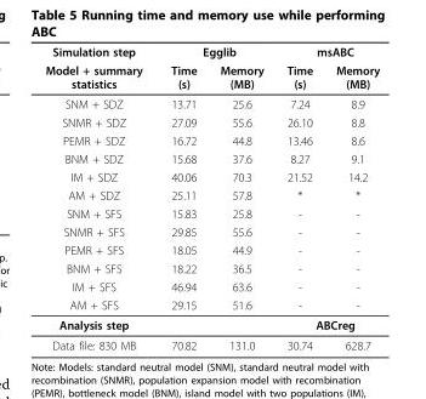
<table><thead><tr><td rowspan="2">Simulation step Model + summary statistics</td><td colspan="2">Egglib</td><td colspan="2">msABC</td></tr><tr><td>Time (s)</td><td>Memory (MB)</td><td>Time (s)</td><td>Memory (MB)</td></tr></thead><tbody><tr><td>SNM + SDZ</td><td>13.71</td><td>25.6</td><td>7.24</td><td>8.9</td></tr><tr><td>SNMR + SDZ</td><td>27.09</td><td>55.6</td><td>26.10</td><td>8.8</td></tr><tr><td>PEMR + SDZ</td><td>16.72</td><td>44.8</td><td>13.46</td><td>8.6</td></tr><tr><td>BNM + SDZ</td><td>15.68</td><td>37.6</td><td>8.27</td><td>9.1</td></tr><tr><td>IM + SDZ</td><td>40.06</td><td>70.3</td><td>21.52</td><td>14.2</td></tr><tr><td>AM + SDZ</td><td>25.11</td><td>57.8</td><td>*</td><td>*</td></tr><tr><td>SNM + SFS</td><td>15.83</td><td>25.8</td><td>-</td><td>-</td></tr><tr><td>SNMR + SFS</td><td>29.85</td><td>55.6</td><td>-</td><td>-</td></tr><tr><td>PEMR + SFS</td><td>18.05</td><td>44.9</td><td>-</td><td>-</td></tr><tr><td>BNM + SFS</td><td>18.22</td><td>36.5</td><td>-</td><td>-</td></tr><tr><td>IM + SFS</td><td>46.94</td><td>63.6</td><td>-</td><td>-</td></tr><tr><td>AM + SFS</td><td>29.15</td><td>51.6</td><td>-</td><td>-</td></tr><tr><td>Analysis step</td><td></td><td></td><td colspan="2">ABCreg</td></tr><tr><td>Data file: 830 MB</td><td>70.82</td><td>131.0</td><td>30.74</td><td>628.7</td></tr></tbody></table>